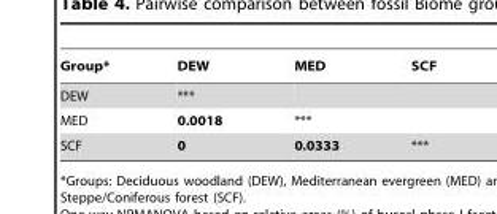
<table><thead><tr><td>Group*</td><td>DEW</td><td>MED</td><td>SCF</td></tr></thead><tbody><tr><td>DEW</td><td>***</td><td></td><td></td></tr><tr><td>MED</td><td>0.0018</td><td>***</td><td></td></tr><tr><td>SCF</td><td>0</td><td>0.0333</td><td>***</td></tr></tbody></table>